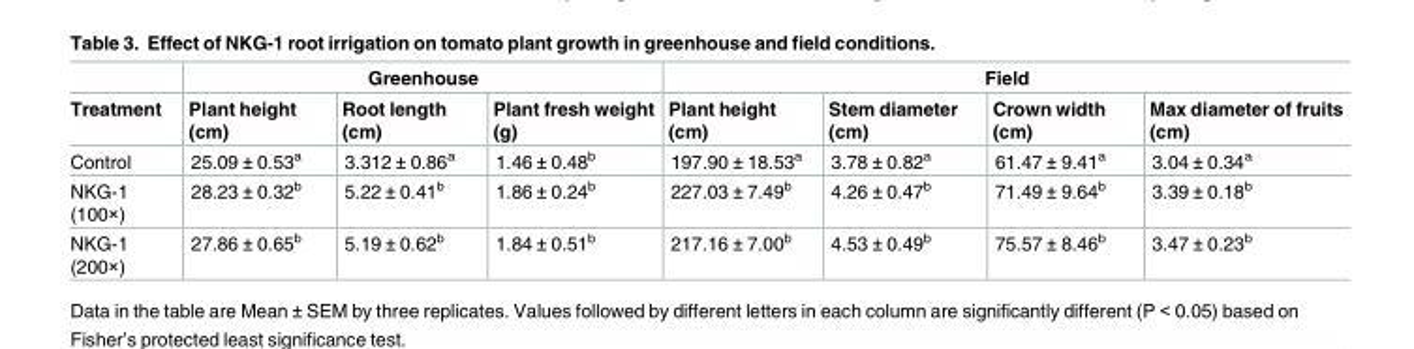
<table><thead><tr><td rowspan="2">Treatment</td><td colspan="3">Greenhouse</td><td colspan="4">Field</td></tr><tr><td>Plant height (cm)</td><td>Root length (cm)</td><td>Plant fresh weight (g)</td><td>Plant height (cm)</td><td>Stem diameter (cm)</td><td>Crown width (cm)</td><td>Max diameter of fruits (cm)</td></tr></thead><tbody><tr><td>Control</td><td>25.09 ± 0.53<sup>a</sup></td><td>3.312 ± 0.86<sup>a</sup></td><td>1.46 ± 0.48<sup>b</sup></td><td>197.90 ± 18.53<sup>a</sup></td><td>3.78 ± 0.82<sup>a</sup></td><td>61.47 ± 9.41<sup>a</sup></td><td>3.04 ± 0.34<sup>a</sup></td></tr><tr><td>NKG-1 (100×)</td><td>28.23 ± 0.32<sup>b</sup></td><td>5.22 ± 0.41<sup>b</sup></td><td>1.86 ± 0.24<sup>b</sup></td><td>227.03 ± 7.49<sup>b</sup></td><td>4.26 ± 0.47<sup>b</sup></td><td>71.49 ± 9.64<sup>b</sup></td><td>3.39 ± 0.18<sup>b</sup></td></tr><tr><td>NKG-1 (200×)</td><td>27.86 ± 0.65<sup>b</sup></td><td>5.19 ± 0.62<sup>b</sup></td><td>1.84 ± 0.51<sup>b</sup></td><td>217.16 ± 7.00<sup>b</sup></td><td>4.53 ± 0.49<sup>b</sup></td><td>75.57 ± 8.46<sup>b</sup></td><td>3.47 ± 0.23<sup>b</sup></td></tr></tbody></table>